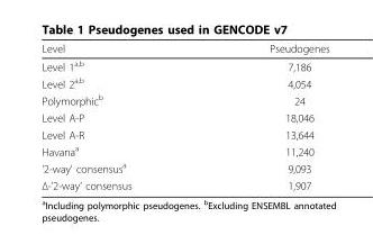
<table><thead><tr><td>Level</td><td>Pseudogenes</td></tr></thead><tbody><tr><td>Level 1<sup>a,b</sup></td><td>7,186</td></tr><tr><td>Level 2<sup>a,b</sup></td><td>4,054</td></tr><tr><td>Polymorphic<sup>b</sup></td><td>24</td></tr><tr><td>Level A-P</td><td>18,046</td></tr><tr><td>Level A-R</td><td>13,644</td></tr><tr><td>Havana<sup>a</sup></td><td>11,240</td></tr><tr><td>’2-way’ consensus<sup>a</sup></td><td>9,093</td></tr><tr><td>Δ-’2-way’ consensus</td><td>1,907</td></tr></tbody></table>